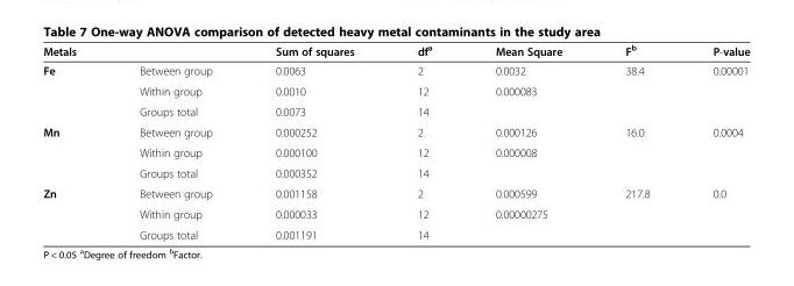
<table><thead><tr><td>Metals</td><td></td><td>Sum of squares</td><td>df<sup>a</sup></td><td>Mean Square</td><td>F<sup>b</sup></td><td>P-value</td></tr></thead><tbody><tr><td rowspan="3">Fe</td><td>Between group</td><td>0.0063</td><td>2</td><td>0.0032</td><td rowspan="3">38.4</td><td rowspan="3">0.00001</td></tr><tr><td>Within group</td><td>0.0010</td><td>12</td><td>0.000083</td></tr><tr><td>Groups total</td><td>0.0073</td><td>14</td><td></td></tr><tr><td rowspan="3">Mn</td><td>Between group</td><td>0.000252</td><td>2</td><td>0.000126</td><td rowspan="3">16.0</td><td rowspan="3">0.0004</td></tr><tr><td>Within group</td><td>0.000100</td><td>12</td><td>0.000008</td></tr><tr><td>Groups total</td><td>0.000352</td><td>14</td><td></td></tr><tr><td rowspan="3">Zn</td><td>Between group</td><td>0.001158</td><td>2</td><td>0.000599</td><td rowspan="3">217.8</td><td rowspan="3">0.0</td></tr><tr><td>Within group</td><td>0.000033</td><td>12</td><td>0.00000275</td></tr><tr><td>Groups total</td><td>0.001191</td><td>14</td><td></td></tr></tbody></table>